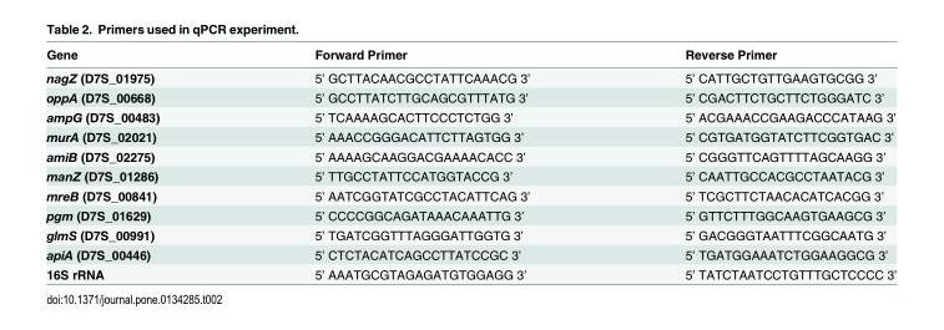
<table><thead><tr><td>Gene</td><td>Forward Primer</td><td>Reverse Primer</td></tr></thead><tbody><tr><td>nagZ (D7S_01975)</td><td>5’ GCTTACAACGCCTATTCAAACG 3’</td><td>5’ CATTGCTGTTGAAGTGCGG 3’</td></tr><tr><td>oppA (D7S_00668)</td><td>5’ GCCTTATCTTGCAGCGTTTATG 3’</td><td>5’ CGACTTCTGCTTCTGGGATC 3’</td></tr><tr><td>ampG (D7S_00483)</td><td>5’ TCAAAAGCACTTCCCTCTGG 3’</td><td>5’ ACGAAACCGAAGACCCATAAG 3’</td></tr><tr><td>murA (D7S_02021)</td><td>5’ AAACCGGGACATTCTTAGTGG 3’</td><td>5’ CGTGATGGTATCTTCGGTGAC 3’</td></tr><tr><td>amiB (D7S_02275)</td><td>5’ AAAAGCAAGGACGAAAACACC 3’</td><td>5’ CGGGTTCAGTTTTAGCAAGG 3’</td></tr><tr><td>manZ (D7S_01286)</td><td>5’ TTGCCTATTCCATGGTACCG 3’</td><td>5’ CAATTGCCACGCCTAATACG 3’</td></tr><tr><td>mreB (D7S_00841)</td><td>5’ AATCGGTATCGCCTACATTCAG 3’</td><td>5’ TCGCTTCTAACACATCACGG 3’</td></tr><tr><td>pgm (D7S_01629)</td><td>5’ CCCCGGCAGATAAACAAATTG 3’</td><td>5’ GTTCTTTGGCAAGTGAAGCG 3’</td></tr><tr><td>glmS (D7S_00991)</td><td>5’ TGATCGGTTTAGGGATTGGTG 3’</td><td>5’ GACGGGTAATTTCGGCAATG 3’</td></tr><tr><td>apiA (D7S_00446)</td><td>5’ CTCTACATCAGCCTTATCCGC 3’</td><td>5’ TGATGGAAATCTGGAAGGCG 3’</td></tr><tr><td>16S rRNA</td><td>5’ AAATGCGTAGAGATGTGGAGG 3’</td><td>5’ TATCTAATCCTGTTTGCTCCCC 3’</td></tr></tbody></table>